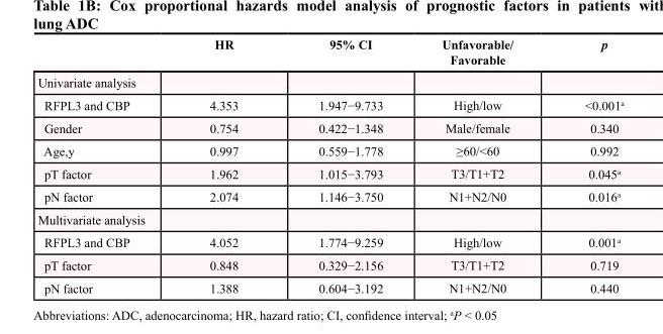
<table><thead><tr><td></td><td>HR</td><td>95% CI</td><td>Unfavorable/ Favorable</td><td>p</td></tr></thead><tbody><tr><td colspan="5">Univariate analysis</td></tr><tr><td>RFPL3 and CBP</td><td>4.353</td><td>1.947−9.733</td><td>High/low</td><td>&lt;0.001<sup>a</sup></td></tr><tr><td>Gender</td><td>0.754</td><td>0.422−1.348</td><td>Male/female</td><td>0.340</td></tr><tr><td>Age,y</td><td>0.997</td><td>0.559−1.778</td><td>≥60/&lt;60</td><td>0.992</td></tr><tr><td>pT factor</td><td>1.962</td><td>1.015−3.793</td><td>T3/T1+T2</td><td>0.045<sup>a</sup></td></tr><tr><td>pN factor</td><td>2.074</td><td>1.146−3.750</td><td>N1+N2/N0</td><td>0.016<sup>a</sup></td></tr><tr><td colspan="5">Multivariate analysis</td></tr><tr><td>RFPL3 and CBP</td><td>4.052</td><td>1.774−9.259</td><td>High/low</td><td>0.001<sup>a</sup></td></tr><tr><td>pT factor</td><td>0.848</td><td>0.329−2.156</td><td>T3/T1+T2</td><td>0.719</td></tr><tr><td>pN factor</td><td>1.388</td><td>0.604−3.192</td><td>N1+N2/N0</td><td>0.440</td></tr></tbody></table>